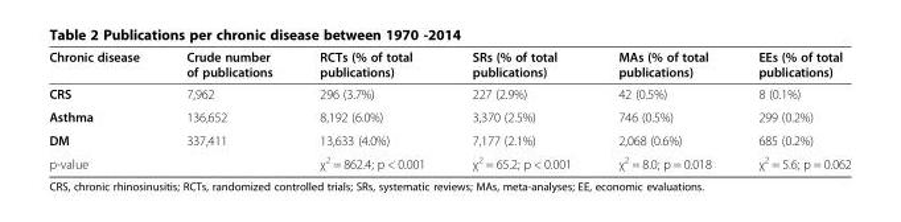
<table><thead><tr><td>Chronic disease</td><td>Crude number of publications</td><td>RCTs (% of total publications)</td><td>SRs (% of total publications)</td><td>MAs (% of total publications)</td><td>EEs (% of total publications)</td></tr></thead><tbody><tr><td>CRS</td><td>7,962</td><td>296 (3.7%)</td><td>227 (2.9%)</td><td>42 (0.5%)</td><td>8 (0.1%)</td></tr><tr><td>Asthma</td><td>136,652</td><td>8,192 (6.0%)</td><td>3,370 (2.5%)</td><td>746 (0.5%)</td><td>299 (0.2%)</td></tr><tr><td>DM</td><td>337,411</td><td>13,633 (4.0%)</td><td>7,177 (2.1%)</td><td>2,068 (0.6%)</td><td>685 (0.2%)</td></tr><tr><td>p-value</td><td></td><td>χ<sup>2</sup> = 862.4; p &lt; 0.001</td><td>χ<sup>2</sup> = 65.2; p &lt; 0.001</td><td>χ<sup>2</sup> = 8.0; p = 0.018</td><td>χ<sup>2</sup> = 5.6; p = 0.062</td></tr></tbody></table>